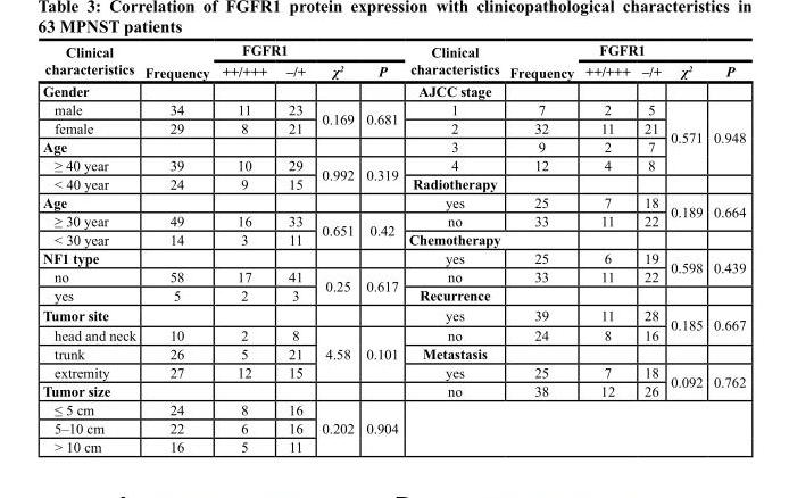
<table><thead><tr><td rowspan="2">Clinical characteristics</td><td rowspan="2">Frequency</td><td colspan="4">FGFR1</td><td rowspan="2">Clinical characteristics</td><td rowspan="2">Frequency</td><td colspan="4">FGFR1</td></tr><tr><td>++/+++</td><td>–/+</td><td>χ<sup>2</sup></td><td>P</td><td>++/+++</td><td>–/+</td><td>χ<sup>2</sup></td><td>P</td></tr></thead><tbody><tr><td>Gender</td><td></td><td></td><td></td><td></td><td></td><td>AJCC stage</td><td></td><td></td><td></td><td></td><td></td></tr><tr><td>male</td><td>34</td><td>11</td><td>23</td><td rowspan="2">0.169</td><td rowspan="2">0.681</td><td>1</td><td>7</td><td>2</td><td>5</td><td rowspan="4">0.571</td><td rowspan="4">0.948</td></tr><tr><td>female</td><td>29</td><td>8</td><td>21</td><td>2</td><td>32</td><td>11</td><td>21</td></tr><tr><td>Age</td><td></td><td></td><td></td><td></td><td></td><td>3</td><td>9</td><td>2</td><td>7</td></tr><tr><td>≥ 40 year</td><td>39</td><td>10</td><td>29</td><td rowspan="2">0.992</td><td rowspan="2">0.319</td><td>4</td><td>12</td><td>4</td><td>8</td></tr><tr><td>&lt; 40 year</td><td>24</td><td>9</td><td>15</td><td>Radiotherapy</td><td></td><td></td><td></td><td></td><td></td></tr><tr><td>Age</td><td></td><td></td><td></td><td></td><td></td><td>yes</td><td>25</td><td>7</td><td>18</td><td rowspan="2">0.189</td><td rowspan="2">0.664</td></tr><tr><td>≥ 30 year</td><td>49</td><td>16</td><td>33</td><td rowspan="2">0.651</td><td rowspan="2">0.42</td><td>no</td><td>33</td><td>11</td><td>22</td></tr><tr><td>&lt; 30 year</td><td>14</td><td>3</td><td>11</td><td colspan="2">Chemotherapy</td><td></td><td></td><td></td><td></td></tr><tr><td>NF1 type</td><td></td><td></td><td></td><td></td><td></td><td>yes</td><td>25</td><td>6</td><td>19</td><td rowspan="2">0.598</td><td rowspan="2">0.439</td></tr><tr><td>no</td><td>58</td><td>17</td><td>41</td><td rowspan="2">0.25</td><td rowspan="2">0.617</td><td>no</td><td>33</td><td>11</td><td>22</td></tr><tr><td>yes</td><td>5</td><td>2</td><td>3</td><td>Recurrence</td><td></td><td></td><td></td><td></td><td></td></tr><tr><td>Tumor site</td><td></td><td></td><td></td><td></td><td></td><td>yes</td><td>39</td><td>11</td><td>28</td><td rowspan="2">0.185</td><td rowspan="2">0.667</td></tr><tr><td>head and neck</td><td>10</td><td>2</td><td>8</td><td rowspan="3">4.58</td><td rowspan="3">0.101</td><td>no</td><td>24</td><td>8</td><td>16</td></tr><tr><td>trunk</td><td>26</td><td>5</td><td>21</td><td>Metastasis</td><td></td><td></td><td></td><td></td><td></td></tr><tr><td>extremity</td><td>27</td><td>12</td><td>15</td><td>yes</td><td>25</td><td>7</td><td>18</td><td rowspan="2">0.092</td><td rowspan="2">0.762</td></tr><tr><td>Tumor size</td><td></td><td></td><td></td><td></td><td></td><td>no</td><td>38</td><td>12</td><td>26</td></tr><tr><td>≤ 5 cm</td><td>24</td><td>8</td><td>16</td><td rowspan="3">0.202</td><td rowspan="3">0.904</td><td rowspan="3" colspan="6"></td></tr><tr><td>5–10 cm</td><td>22</td><td>6</td><td>16</td></tr><tr><td>&gt; 10 cm</td><td>16</td><td>5</td><td>11</td></tr></tbody></table>